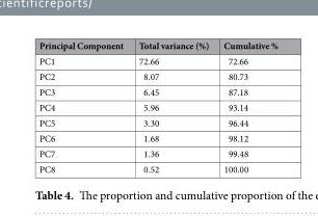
<table><thead><tr><td>Principal Component</td><td>Total variance (%)</td><td>Cumulative %</td></tr></thead><tbody><tr><td>PC1</td><td>72.66</td><td>72.66</td></tr><tr><td>PC2</td><td>8.07</td><td>80.73</td></tr><tr><td>PC3</td><td>6.45</td><td>87.18</td></tr><tr><td>PC4</td><td>5.96</td><td>93.14</td></tr><tr><td>PC5</td><td>3.30</td><td>96.44</td></tr><tr><td>PC6</td><td>1.68</td><td>98.12</td></tr><tr><td>PC7</td><td>1.36</td><td>99.48</td></tr><tr><td>PC8</td><td>0.52</td><td>100.00</td></tr></tbody></table>